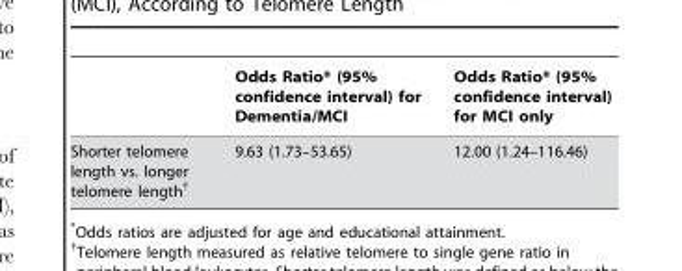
<table><thead><tr><td></td><td>Odds Ratio* (95% confidence interval) for Dementia/MCI</td><td>Odds Ratio* (95% confidence interval) for MCI only</td></tr></thead><tbody><tr><td>Shorter telomere length vs. longer telomere length†</td><td>9.63 (1.73–53.65)</td><td>12.00 (1.24–116.46)</td></tr></tbody></table>